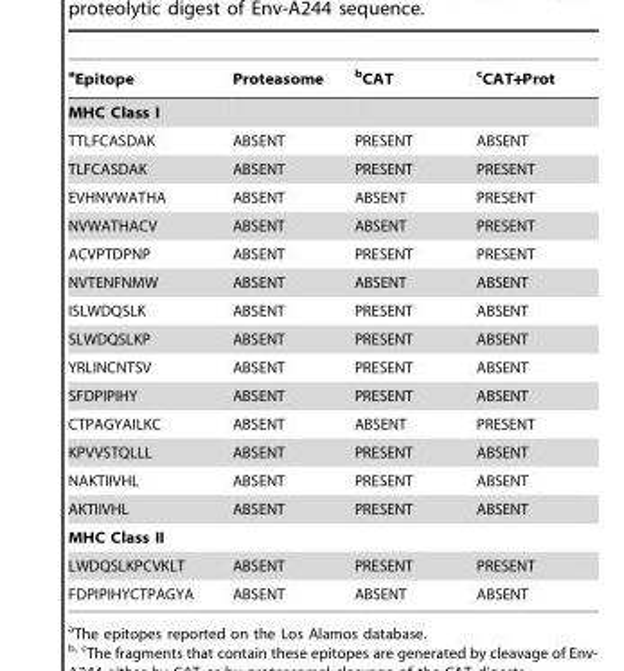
<table><thead><tr><td>aEpitope</td><td>Proteasome</td><td>bCAT</td><td>cCAT+Prot</td></tr></thead><tbody><tr><td colspan="4">MHC Class I</td></tr><tr><td>TTLFCASDAK</td><td>ABSENT</td><td>PRESENT</td><td>ABSENT</td></tr><tr><td>TLFCASDAK</td><td>ABSENT</td><td>PRESENT</td><td>PRESENT</td></tr><tr><td>EVHNVWATHA</td><td>ABSENT</td><td>ABSENT</td><td>PRESENT</td></tr><tr><td>NVWATHACV</td><td>ABSENT</td><td>ABSENT</td><td>PRESENT</td></tr><tr><td>ACVPTDPNP</td><td>ABSENT</td><td>PRESENT</td><td>PRESENT</td></tr><tr><td>NVTENFNMW</td><td>ABSENT</td><td>ABSENT</td><td>ABSENT</td></tr><tr><td>ISLWDQSLK</td><td>ABSENT</td><td>PRESENT</td><td>ABSENT</td></tr><tr><td>SLWDQSLKP</td><td>ABSENT</td><td>PRESENT</td><td>ABSENT</td></tr><tr><td>YRLINCNTSV</td><td>ABSENT</td><td>PRESENT</td><td>ABSENT</td></tr><tr><td>SFDPIPIHY</td><td>ABSENT</td><td>PRESENT</td><td>ABSENT</td></tr><tr><td>CTPAGYAILKC</td><td>ABSENT</td><td>ABSENT</td><td>PRESENT</td></tr><tr><td>KPVVSTQLLL</td><td>ABSENT</td><td>PRESENT</td><td>ABSENT</td></tr><tr><td>NAKTIIVHL</td><td>ABSENT</td><td>PRESENT</td><td>ABSENT</td></tr><tr><td>AKTIIVHL</td><td>ABSENT</td><td>PRESENT</td><td>ABSENT</td></tr><tr><td colspan="4">MHC Class II</td></tr><tr><td>LWDQSLKPCVKLT</td><td>ABSENT</td><td>PRESENT</td><td>PRESENT</td></tr><tr><td>FDPIPIHYCTPAGYA</td><td>ABSENT</td><td>ABSENT</td><td>ABSENT</td></tr></tbody></table>